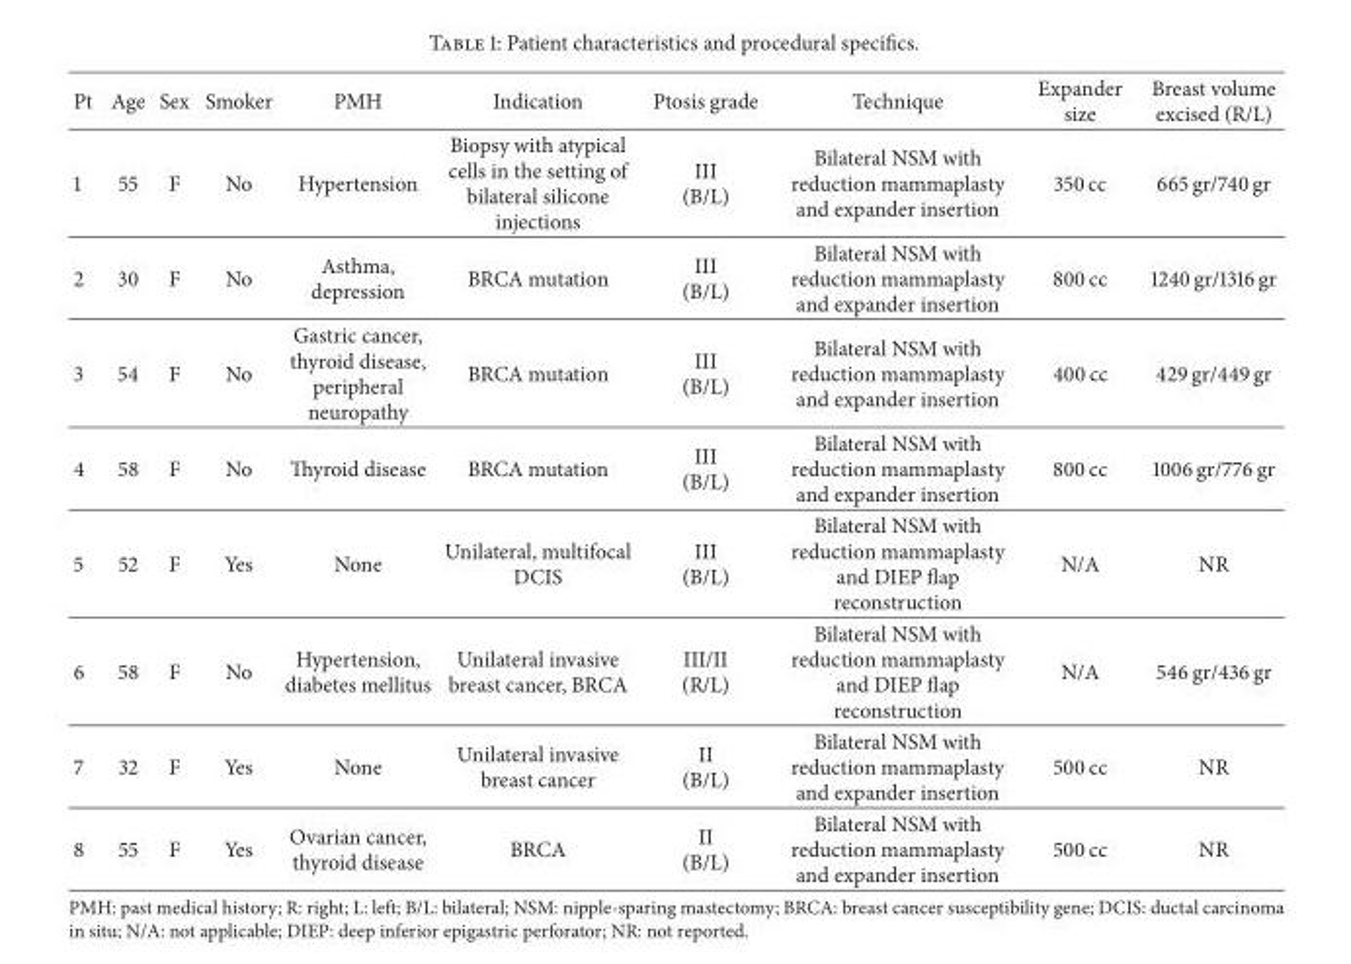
<table><thead><tr><td>Pt</td><td>Age</td><td>Sex</td><td>Smoker</td><td>PMH</td><td>Indication</td><td>Ptosis grade</td><td>Technique</td><td>Expander size</td><td>Breast volume excised (R/L)</td></tr></thead><tbody><tr><td>1</td><td>55</td><td>F</td><td>No</td><td>Hypertension</td><td>Biopsy with atypical cells in the setting of bilateral silicone injections</td><td>III (B/L)</td><td>Bilateral NSM with reduction mammaplasty and expander insertion</td><td>350 cc</td><td>665 gr/740 gr</td></tr><tr><td>2</td><td>30</td><td>F</td><td>No</td><td>Asthma, depression</td><td>BRCA mutation</td><td>III (B/L)</td><td>Bilateral NSM with reduction mammaplasty and expander insertion</td><td>800 cc</td><td>1240 gr/1316 gr</td></tr><tr><td>3</td><td>54</td><td>F</td><td>No</td><td>Gastric cancer, thyroid disease, peripheral neuropathy</td><td>BRCA mutation</td><td>III (B/L)</td><td>Bilateral NSM with reduction mammaplasty and expander insertion</td><td>400 cc</td><td>429 gr/449 gr</td></tr><tr><td>4</td><td>58</td><td>F</td><td>No</td><td>Thyroid disease</td><td>BRCA mutation</td><td>III (B/L)</td><td>Bilateral NSM with reduction mammaplasty and expander insertion</td><td>800 cc</td><td>1006 gr/776 gr</td></tr><tr><td>5</td><td>52</td><td>F</td><td>Yes</td><td>None</td><td>Unilateral, multifocal DCIS</td><td>III (B/L)</td><td>Bilateral NSM with reduction mammaplasty and DIEP flap reconstruction</td><td>N/A</td><td>NR</td></tr><tr><td>6</td><td>58</td><td>F</td><td>No</td><td>Hypertension, diabetes mellitus</td><td>Unilateral invasive breast cancer, BRCA</td><td>III/II (R/L)</td><td>Bilateral NSM with reduction mammaplasty and DIEP flap reconstruction</td><td>N/A</td><td>546 gr/436 gr</td></tr><tr><td>7</td><td>32</td><td>F</td><td>Yes</td><td>None</td><td>Unilateral invasive breast cancer</td><td>II (B/L)</td><td>Bilateral NSM with reduction mammaplasty and expander insertion</td><td>500 cc</td><td>NR</td></tr><tr><td>8</td><td>55</td><td>F</td><td>Yes</td><td>Ovarian cancer, thyroid disease</td><td>BRCA</td><td>II (B/L)</td><td>Bilateral NSM with reduction mammaplasty and expander insertion</td><td>500 cc</td><td>NR</td></tr></tbody></table>